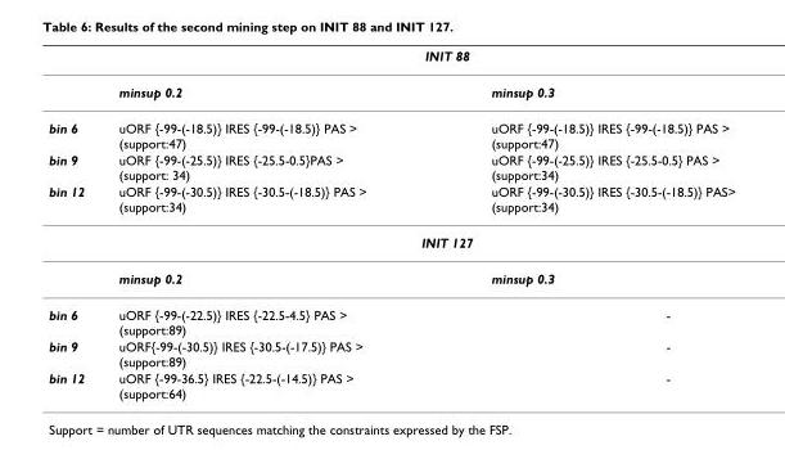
<table><thead><tr><td colspan="3">INIT 88</td></tr><tr><td></td><td>minsup 0.2</td><td>minsup 0.3</td></tr></thead><tbody><tr><td>bin 6</td><td>uORF {-99-(-18.5)} IRES {-99-(-18.5)} PAS &gt; (support:47)</td><td>uORF {-99-(-18.5)} IRES {-99-(-18.5)} PAS &gt; (support:47)</td></tr><tr><td>bin 9</td><td>uORF {-99-(-25.5)} IRES {-25.5-0.5}PAS &gt; (support: 34)</td><td>uORF {-99-(-25.5)} IRES {-25.5-0.5} PAS &gt; (support:34)</td></tr><tr><td>bin 12</td><td>uORF {-99-(-30.5)} IRES {-30.5-(-18.5)} PAS &gt; (support:34)</td><td>uORF {-99-(-30.5)} IRES {-30.5-(-18.5)} PAS&gt; (support:34)</td></tr><tr><td colspan="3">INIT 127</td></tr><tr><td></td><td>minsup 0.2</td><td>minsup 0.3</td></tr><tr><td>bin 6</td><td>uORF {-99-(-22.5)} IRES {-22.5-4.5} PAS &gt; (support:89)</td><td>-</td></tr><tr><td>bin 9</td><td>uORF{-99-(-30.5)} IRES {-30.5-(-17.5)} PAS &gt; (support:89)</td><td>-</td></tr><tr><td>bin 12</td><td>uORF {-99-36.5} IRES {-22.5-(-14.5)} PAS &gt; (support:64)</td><td>-</td></tr></tbody></table>